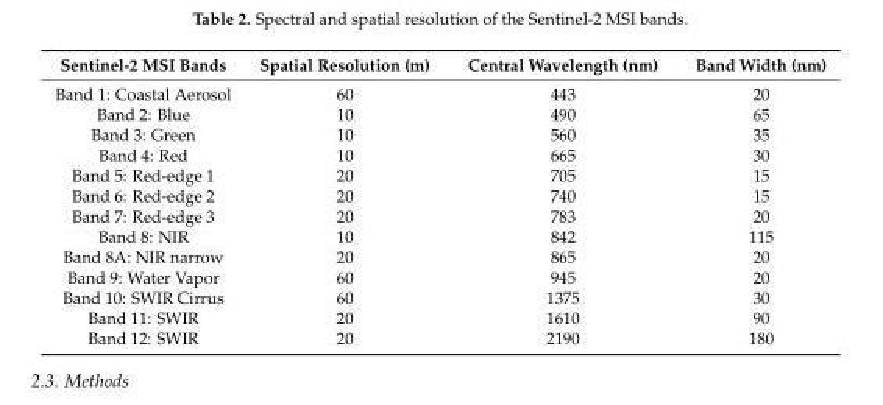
<table><thead><tr><td>Sentinel-2 MSI Bands</td><td>Spatial Resolution (m)</td><td>Central Wavelength (nm)</td><td>Band Width (nm)</td></tr></thead><tbody><tr><td>Band 1: Coastal Aerosol</td><td>60</td><td>443</td><td>20</td></tr><tr><td>Band 2: Blue</td><td>10</td><td>490</td><td>65</td></tr><tr><td>Band 3: Green</td><td>10</td><td>560</td><td>35</td></tr><tr><td>Band 4: Red</td><td>10</td><td>665</td><td>30</td></tr><tr><td>Band 5: Red-edge 1</td><td>20</td><td>705</td><td>15</td></tr><tr><td>Band 6: Red-edge 2</td><td>20</td><td>740</td><td>15</td></tr><tr><td>Band 7: Red-edge 3</td><td>20</td><td>783</td><td>20</td></tr><tr><td>Band 8: NIR</td><td>10</td><td>842</td><td>115</td></tr><tr><td>Band 8A: NIR narrow</td><td>20</td><td>865</td><td>20</td></tr><tr><td>Band 9: Water Vapor</td><td>60</td><td>945</td><td>20</td></tr><tr><td>Band 10: SWIR Cirrus</td><td>60</td><td>1375</td><td>30</td></tr><tr><td>Band 11: SWIR</td><td>20</td><td>1610</td><td>90</td></tr><tr><td>Band 12: SWIR</td><td>20</td><td>2190</td><td>180</td></tr></tbody></table>